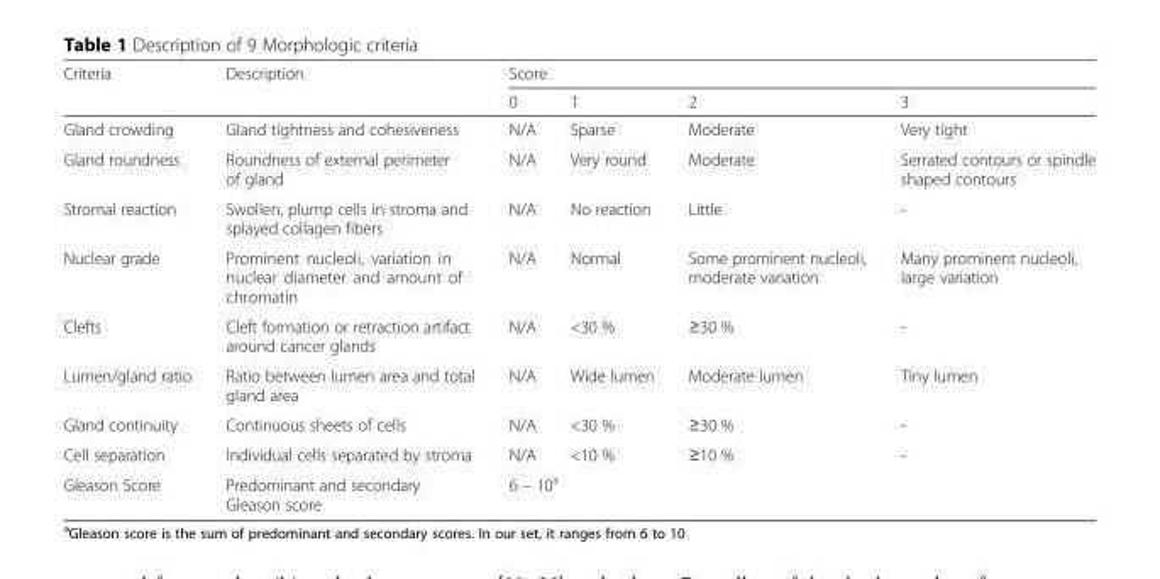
<table><thead><tr><td rowspan="2">Criteria</td><td rowspan="2">Description</td><td colspan="4">Score</td></tr><tr><td>0</td><td>1</td><td>2</td><td>3</td></tr></thead><tbody><tr><td>Gland crowding</td><td>Gland tightness and cohesiveness</td><td>N/A</td><td>Sparse</td><td>Moderate</td><td>Very tight</td></tr><tr><td>Gland roundness</td><td>Roundness of external perimeter of gland</td><td>N/A</td><td>Very round</td><td>Moderate</td><td>Serrated contours or spindle shaped contours</td></tr><tr><td>Stromal reaction</td><td>Swollen, plump cells in stroma and splayed collagen fibers</td><td>N/A</td><td>No reaction</td><td>Little</td><td>-</td></tr><tr><td>Nuclear grade</td><td>Prominent nucleoli, variation in nuclear diameter and amount of chromatin</td><td>N/A</td><td>Normal</td><td>Some prominent nucleoli, moderate variation</td><td>Many prominent nucleoli, large variation</td></tr><tr><td>Clefts</td><td>Cleft formation or retraction artifact around cancer glands</td><td>N/A</td><td>&lt;30 %</td><td>≥30 %</td><td>-</td></tr><tr><td>Lumen/gland ratio</td><td>Ratio between lumen area and total gland area</td><td>N/A</td><td>Wide lumen</td><td>Moderate lumen</td><td>Tiny lumen</td></tr><tr><td>Gland continuity</td><td>Continuous sheets of cells</td><td>N/A</td><td>&lt;30 %</td><td>≥30 %</td><td>-</td></tr><tr><td>Cell separation</td><td>Individual cells separated by stroma</td><td>N/A</td><td>&lt;10 %</td><td>≥10 %</td><td>-</td></tr><tr><td>Gleason Score</td><td>Predominant and secondary Gleason score</td><td colspan="4">6 – 10<sup>a</sup></td></tr></tbody></table>